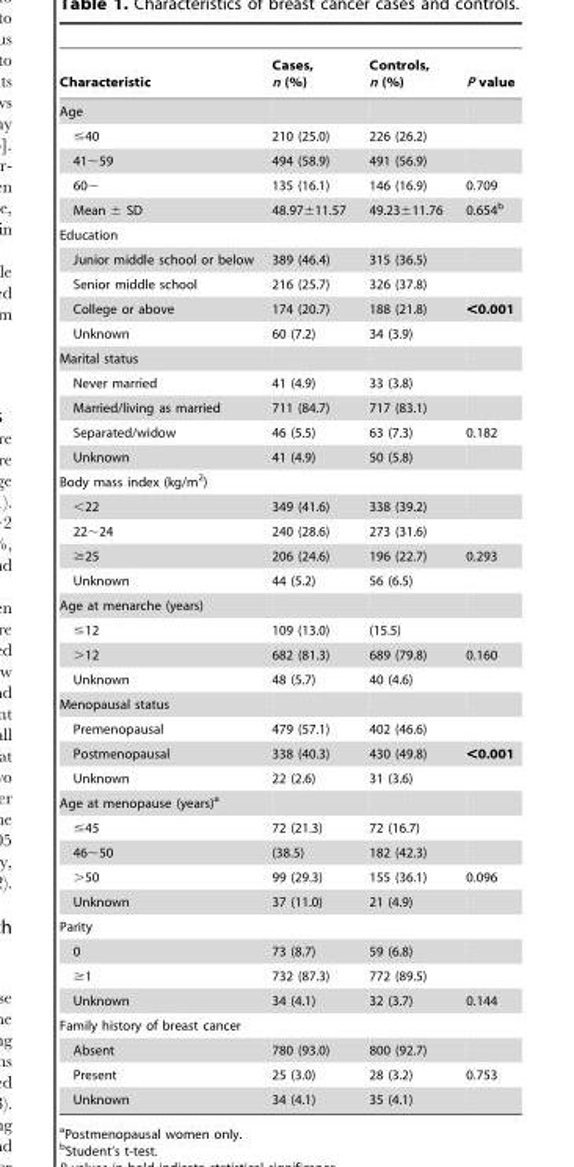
<table><thead><tr><td>Characteristic</td><td>Cases, n (%)</td><td>Controls, n (%)</td><td>P value</td></tr></thead><tbody><tr><td colspan="4">Age</td></tr><tr><td>≤40</td><td>210 (25.0)</td><td>226 (26.2)</td><td></td></tr><tr><td>41∼59</td><td>494 (58.9)</td><td>491 (56.9)</td><td></td></tr><tr><td>60∼</td><td>135 (16.1)</td><td>146 (16.9)</td><td>0.709</td></tr><tr><td>Mean ± SD</td><td>48.97±11.57</td><td>49.23±11.76</td><td>0.654<sup>b</sup></td></tr><tr><td colspan="4">Education</td></tr><tr><td>Junior middle school or below</td><td>389 (46.4)</td><td>315 (36.5)</td><td></td></tr><tr><td>Senior middle school</td><td>216 (25.7)</td><td>326 (37.8)</td><td></td></tr><tr><td>College or above</td><td>174 (20.7)</td><td>188 (21.8)</td><td>&lt;0.001</td></tr><tr><td>Unknown</td><td>60 (7.2)</td><td>34 (3.9)</td><td></td></tr><tr><td colspan="4">Marital status</td></tr><tr><td>Never married</td><td>41 (4.9)</td><td>33 (3.8)</td><td></td></tr><tr><td>Married/living as married</td><td>711 (84.7)</td><td>717 (83.1)</td><td></td></tr><tr><td>Separated/widow</td><td>46 (5.5)</td><td>63 (7.3)</td><td>0.182</td></tr><tr><td>Unknown</td><td>41 (4.9)</td><td>50 (5.8)</td><td></td></tr><tr><td colspan="4">Body mass index (kg/m<sup>2</sup>)</td></tr><tr><td>&lt;22</td><td>349 (41.6)</td><td>338 (39.2)</td><td></td></tr><tr><td>22∼24</td><td>240 (28.6)</td><td>273 (31.6)</td><td></td></tr><tr><td>≥25</td><td>206 (24.6)</td><td>196 (22.7)</td><td>0.293</td></tr><tr><td>Unknown</td><td>44 (5.2)</td><td>56 (6.5)</td><td></td></tr><tr><td colspan="4">Age at menarche (years)</td></tr><tr><td>≤12</td><td>109 (13.0)</td><td>(15.5)</td><td></td></tr><tr><td>&gt;12</td><td>682 (81.3)</td><td>689 (79.8)</td><td>0.160</td></tr><tr><td>Unknown</td><td>48 (5.7)</td><td>40 (4.6)</td><td></td></tr><tr><td colspan="4">Menopausal status</td></tr><tr><td>Premenopausal</td><td>479 (57.1)</td><td>402 (46.6)</td><td></td></tr><tr><td>Postmenopausal</td><td>338 (40.3)</td><td>430 (49.8)</td><td>&lt;0.001</td></tr><tr><td>Unknown</td><td>22 (2.6)</td><td>31 (3.6)</td><td></td></tr><tr><td colspan="4">Age at menopause (years)<sup>a</sup></td></tr><tr><td>≤45</td><td>72 (21.3)</td><td>72 (16.7)</td><td></td></tr><tr><td>46∼50</td><td>(38.5)</td><td>182 (42.3)</td><td></td></tr><tr><td>&gt;50</td><td>99 (29.3)</td><td>155 (36.1)</td><td>0.096</td></tr><tr><td>Unknown</td><td>37 (11.0)</td><td>21 (4.9)</td><td></td></tr><tr><td colspan="4">Parity</td></tr><tr><td>0</td><td>73 (8.7)</td><td>59 (6.8)</td><td></td></tr><tr><td>≥1</td><td>732 (87.3)</td><td>772 (89.5)</td><td></td></tr><tr><td>Unknown</td><td>34 (4.1)</td><td>32 (3.7)</td><td>0.144</td></tr><tr><td colspan="4">Family history of breast cancer</td></tr><tr><td>Absent</td><td>780 (93.0)</td><td>800 (92.7)</td><td></td></tr><tr><td>Present</td><td>25 (3.0)</td><td>28 (3.2)</td><td>0.753</td></tr><tr><td>Unknown</td><td>34 (4.1)</td><td>35 (4.1)</td><td></td></tr></tbody></table>